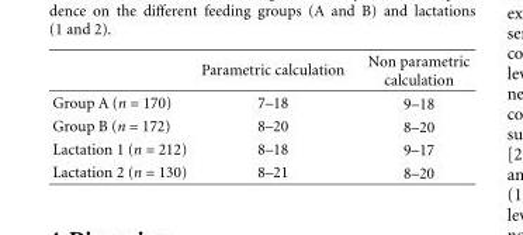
<table><thead><tr><td></td><td>Parametric calculation</td><td>Non parametric calculation</td></tr></thead><tbody><tr><td>Group A (n = 170)</td><td>7–18</td><td>9–18</td></tr><tr><td>Group B (n = 172)</td><td>8–20</td><td>8–20</td></tr><tr><td>Lactation 1 (n = 212)</td><td>8–18</td><td>9–17</td></tr><tr><td>Lactation 2 (n = 130)</td><td>8–21</td><td>8–20</td></tr></tbody></table>